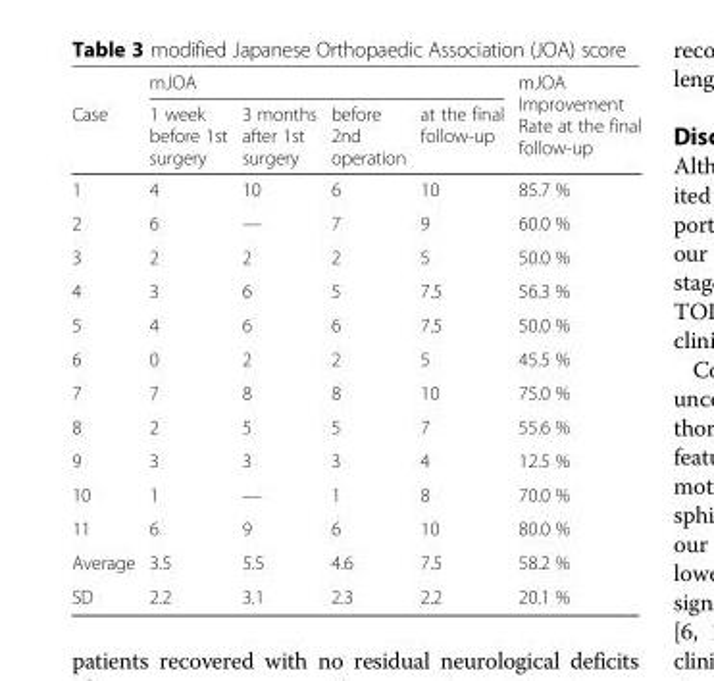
<table><thead><tr><td rowspan="2">Case</td><td colspan="4">mJOA</td><td rowspan="2">mJOA Improvement Rate at the final follow-up</td></tr><tr><td>1 week before 1st surgery</td><td>3 months after 1st surgery</td><td>before 2nd operation</td><td>at the final follow-up</td></tr></thead><tbody><tr><td>1</td><td>4</td><td>10</td><td>6</td><td>10</td><td>85.7 %</td></tr><tr><td>2</td><td>6</td><td>—</td><td>7</td><td>9</td><td>60.0 %</td></tr><tr><td>3</td><td>2</td><td>2</td><td>2</td><td>5</td><td>50.0 %</td></tr><tr><td>4</td><td>3</td><td>6</td><td>5</td><td>7.5</td><td>56.3 %</td></tr><tr><td>5</td><td>4</td><td>6</td><td>6</td><td>7.5</td><td>50.0 %</td></tr><tr><td>6</td><td>0</td><td>2</td><td>2</td><td>5</td><td>45.5 %</td></tr><tr><td>7</td><td>7</td><td>8</td><td>8</td><td>10</td><td>75.0 %</td></tr><tr><td>8</td><td>2</td><td>5</td><td>5</td><td>7</td><td>55.6 %</td></tr><tr><td>9</td><td>3</td><td>3</td><td>3</td><td>4</td><td>12.5 %</td></tr><tr><td>10</td><td>1</td><td>—</td><td>1</td><td>8</td><td>70.0 %</td></tr><tr><td>11</td><td>6</td><td>9</td><td>6</td><td>10</td><td>80.0 %</td></tr><tr><td>Average</td><td>3.5</td><td>5.5</td><td>4.6</td><td>7.5</td><td>58.2 %</td></tr><tr><td>SD</td><td>2.2</td><td>3.1</td><td>2.3</td><td>2.2</td><td>20.1 %</td></tr></tbody></table>